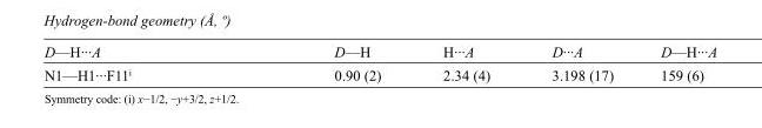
<table><tbody><tr><td>D—H···A</td><td>D—H</td><td>H···A</td><td>D···A</td><td>D—H···A</td></tr><tr><td>N1—H1···F11<sup>i</sup></td><td>0.90 (2)</td><td>2.34 (4)</td><td>3.198 (17)</td><td>159 (6)</td></tr></tbody></table>